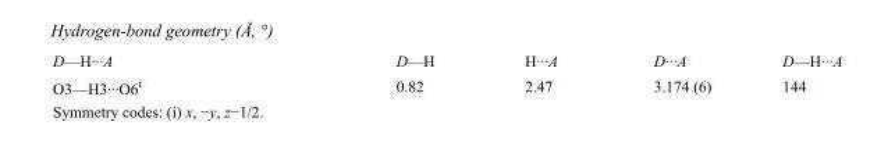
<table><tbody><tr><td>D—H···A</td><td>D—H</td><td>H···A</td><td>D···A</td><td>D—H···A</td></tr><tr><td>O3—H3···O6<sup>i</sup></td><td>0.82</td><td>2.47</td><td>3.174 (6)</td><td>144</td></tr></tbody></table>